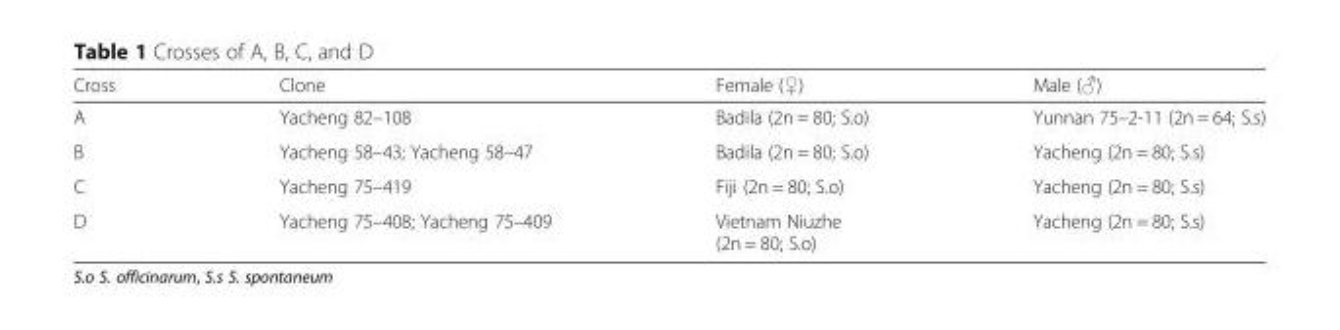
<table><thead><tr><td>Cross</td><td>Clone</td><td>Female (♀)</td><td>Male (♂)</td></tr></thead><tbody><tr><td>A</td><td>Yacheng 82–108</td><td>Badila (2n = 80; S.o)</td><td>Yunnan 75–2-11 (2n = 64; S.s)</td></tr><tr><td>B</td><td>Yacheng 58–43; Yacheng 58–47</td><td>Badila (2n = 80; S.o)</td><td>Yacheng (2n = 80; S.s)</td></tr><tr><td>C</td><td>Yacheng 75–419</td><td>Fiji (2n = 80; S.o)</td><td>Yacheng (2n = 80; S.s)</td></tr><tr><td>D</td><td>Yacheng 75–408; Yacheng 75–409</td><td>Vietnam Niuzhe (2n = 80; S.o)</td><td>Yacheng (2n = 80; S.s)</td></tr></tbody></table>